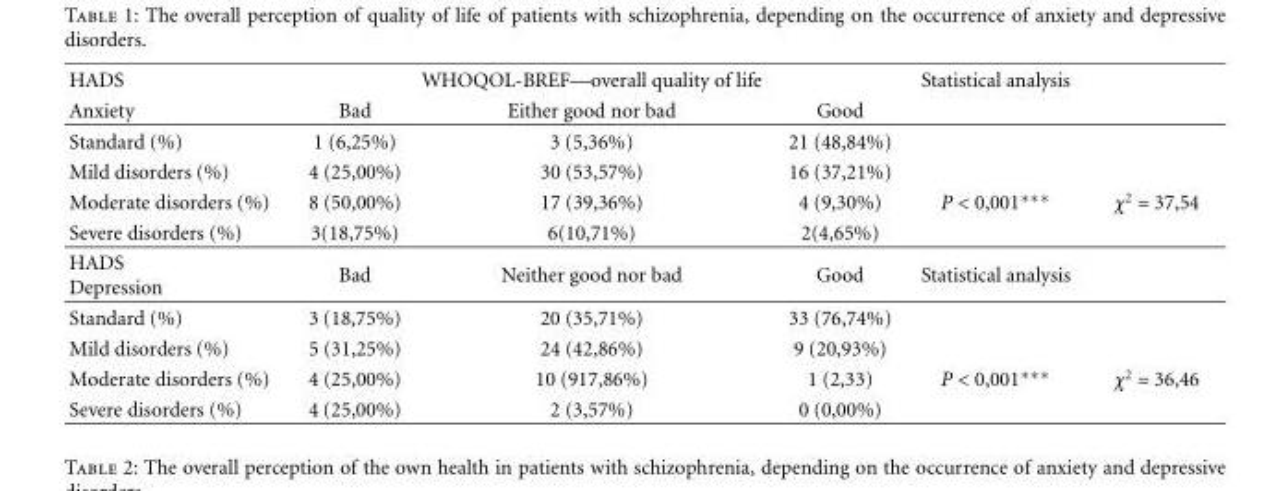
<table><thead><tr><td rowspan="2">HADS Anxiety</td><td rowspan="2">Bad</td><td rowspan="2">WHOQOL-BREF—overall quality of life Either good nor bad</td><td rowspan="2">Good</td><td rowspan="2">Statistical analysis</td><td rowspan="2"></td></tr><tr></tr></thead><tbody><tr><td>Standard (%)</td><td>1 (6,25%)</td><td>3 (5,36%)</td><td>21 (48,84%)</td><td></td><td></td></tr><tr><td>Mild disorders (%)</td><td>4 (25,00%)</td><td>30 (53,57%)</td><td>16 (37,21%)</td><td></td><td></td></tr><tr><td>Moderate disorders (%)</td><td>8 (50,00%)</td><td>17 (39,36%)</td><td>4 (9,30%)</td><td>P &lt; 0,001∗∗∗</td><td>χ<sup>2</sup> = 37,54</td></tr><tr><td>Severe disorders (%)</td><td>3(18,75%)</td><td>6(10,71%)</td><td>2(4,65%)</td><td></td><td></td></tr><tr><td>HADS Depression</td><td>Bad</td><td>Neither good nor bad</td><td>Good</td><td>Statistical analysis</td><td></td></tr><tr><td>Standard (%)</td><td>3 (18,75%)</td><td>20 (35,71%)</td><td>33 (76,74%)</td><td></td><td></td></tr><tr><td>Mild disorders (%)</td><td>5 (31,25%)</td><td>24 (42,86%)</td><td>9 (20,93%)</td><td></td><td></td></tr><tr><td>Moderate disorders (%)</td><td>4 (25,00%)</td><td>10 (917,86%)</td><td>1 (2,33)</td><td>P &lt; 0,001∗∗∗</td><td>χ2 = 36,46</td></tr><tr><td>Severe disorders (%)</td><td>4 (25,00%)</td><td>2 (3,57%)</td><td>0 (0,00%)</td><td></td><td></td></tr></tbody></table>